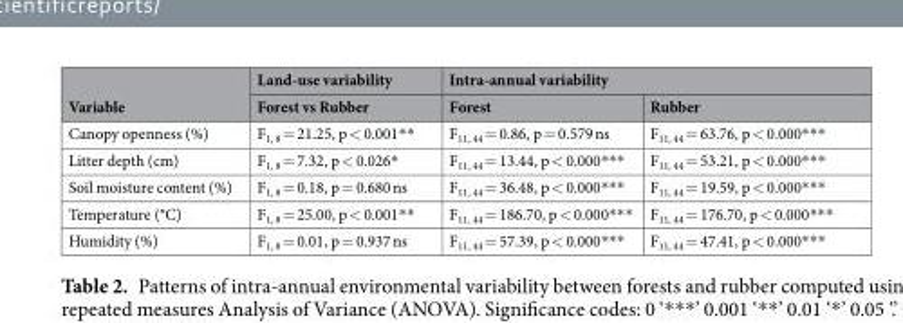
<table><thead><tr><td rowspan="2">Variable</td><td rowspan="2">Land-use variability Forest vs Rubber</td><td colspan="2">Intra-annual variability</td></tr><tr><td>Forest</td><td>Rubber</td></tr></thead><tbody><tr><td>Canopy openness (%)</td><td>F<sub>1, 8</sub> = 21.25, p &lt; 0.001**</td><td>F<sub>11, 44</sub> = 0.86, p = 0.579 ns</td><td>F<sub>11, 44</sub> = 63.76, p &lt; 0.000***</td></tr><tr><td>Litter depth (cm)</td><td>F<sub>1, 8</sub> = 7.32, p &lt; 0.026*</td><td>F<sub>11, 44</sub> = 13.44, p &lt; 0.000***</td><td>F<sub>11, 44</sub> = 53.21, p &lt; 0.000***</td></tr><tr><td>Soil moisture content (%)</td><td>F<sub>1, 8</sub> = 0.18, p = 0.680 ns</td><td>F<sub>11, 44</sub> = 36.48, p &lt; 0.000***</td><td>F<sub>11, 44</sub> = 19.59, p &lt; 0.000***</td></tr><tr><td>Temperature (°C)</td><td>F<sub>1, 8</sub> = 25.00, p &lt; 0.001**</td><td>F<sub>11, 44</sub> = 186.70, p &lt; 0.000***</td><td>F<sub>11, 44</sub> = 176.70, p &lt; 0.000***</td></tr><tr><td>Humidity (%)</td><td>F<sub>1, 8</sub> = 0.01, p = 0.937 ns</td><td>F<sub>11, 44</sub> = 57.39, p &lt; 0.000***</td><td>F<sub>11, 44</sub> = 47.41, p &lt; 0.000***</td></tr></tbody></table>